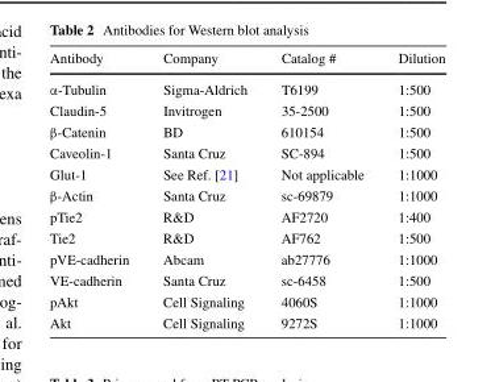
<table><thead><tr><td>Antibody</td><td>Company</td><td>Catalog #</td><td>Dilution</td></tr></thead><tbody><tr><td>α-Tubulin</td><td>Sigma-Aldrich</td><td>T6199</td><td>1:500</td></tr><tr><td>Claudin-5</td><td>Invitrogen</td><td>35-2500</td><td>1:500</td></tr><tr><td>β-Catenin</td><td>BD</td><td>610154</td><td>1:500</td></tr><tr><td>Caveolin-1</td><td>Santa Cruz</td><td>SC-894</td><td>1:500</td></tr><tr><td>Glut-1</td><td>See Ref. [21]</td><td>Not applicable</td><td>1:1000</td></tr><tr><td>β-Actin</td><td>Santa Cruz</td><td>sc-69879</td><td>1:1000</td></tr><tr><td>pTie2</td><td>R&amp;D</td><td>AF2720</td><td>1:400</td></tr><tr><td>Tie2</td><td>R&amp;D</td><td>AF762</td><td>1:500</td></tr><tr><td>pVE-cadherin</td><td>Abcam</td><td>ab27776</td><td>1:1000</td></tr><tr><td>VE-cadherin</td><td>Santa Cruz</td><td>sc-6458</td><td>1:500</td></tr><tr><td>pAkt</td><td>Cell Signaling</td><td>4060S</td><td>1:1000</td></tr><tr><td>Akt</td><td>Cell Signaling</td><td>9272S</td><td>1:1000</td></tr></tbody></table>